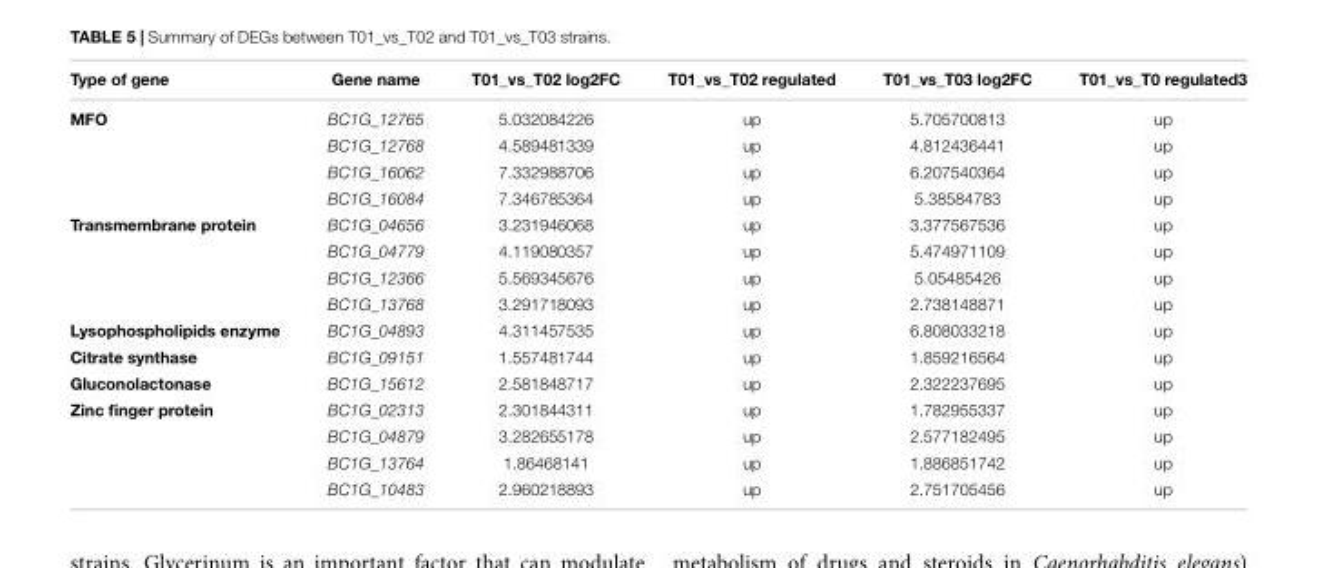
<table><thead><tr><td>Type of gene</td><td>Gene name</td><td>T01_vs_T02 log2FC</td><td>T01_vs_T02 regulated</td><td>T01_vs_T03 log2FC</td><td>T01_vs_T0 regulated3</td></tr></thead><tbody><tr><td rowspan="4">MFO</td><td>BC1G_12765</td><td>5.032084226</td><td>up</td><td>5.705700813</td><td>up</td></tr><tr><td>BC1G_12768</td><td>4.589481339</td><td>up</td><td>4.812436441</td><td>up</td></tr><tr><td>BC1G_16062</td><td>7.332988706</td><td>up</td><td>6.207540364</td><td>up</td></tr><tr><td>BC1G_16084</td><td>7.346785364</td><td>up</td><td>5.38584783</td><td>up</td></tr><tr><td rowspan="4">Transmembrane protein</td><td>BC1G_04656</td><td>3.231946068</td><td>up</td><td>3.377567536</td><td>up</td></tr><tr><td>BC1G_04779</td><td>4.119080357</td><td>up</td><td>5.474971109</td><td>up</td></tr><tr><td>BC1G_12366</td><td>5.569345676</td><td>up</td><td>5.05485426</td><td>up</td></tr><tr><td>BC1G_13768</td><td>3.291718093</td><td>up</td><td>2.738148871</td><td>up</td></tr><tr><td>Lysophospholipids enzyme</td><td>BC1G_04893</td><td>4.311457535</td><td>up</td><td>6.808033218</td><td>up</td></tr><tr><td>Citrate synthase</td><td>BC1G_09151</td><td>1.557481744</td><td>up</td><td>1.859216564</td><td>up</td></tr><tr><td>Gluconolactonase</td><td>BC1G_15612</td><td>2.581848717</td><td>up</td><td>2.322237695</td><td>up</td></tr><tr><td rowspan="4">Zinc finger protein</td><td>BC1G_02313</td><td>2.301844311</td><td>up</td><td>1.782955337</td><td>up</td></tr><tr><td>BC1G_04879</td><td>3.282655178</td><td>up</td><td>2.577182495</td><td>up</td></tr><tr><td>BC1G_13764</td><td>1.86468141</td><td>up</td><td>1.886851742</td><td>up</td></tr><tr><td>BC1G_10483</td><td>2.960218893</td><td>up</td><td>2.751705456</td><td>up</td></tr></tbody></table>